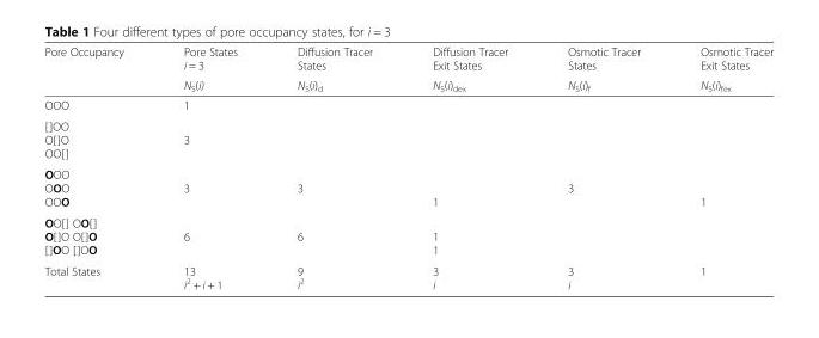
<table><thead><tr><td rowspan="2">Pore Occupancy</td><td rowspan="2">Pore States i = 3 N<sub>S</sub>(i)</td><td rowspan="2">Diffusion Tracer States N<sub>S</sub>(i)<sub>d</sub></td><td rowspan="2">Diffusion Tracer Exit States N<sub>S</sub>(i)<sub>dex</sub></td><td rowspan="2">Osmotic Tracer States N<sub>S</sub>(i)<sub>f</sub></td><td rowspan="2">Osmotic Tracer Exit States N<sub>S</sub>(i)<sub>fex</sub></td></tr><tr></tr></thead><tbody><tr><td>OOO</td><td>1</td><td></td><td></td><td></td><td></td></tr><tr><td>[]OO O[]O OO[]</td><td>3</td><td></td><td></td><td></td><td></td></tr><tr><td>OOO OOO OOO</td><td>3</td><td>3</td><td>1</td><td>3</td><td>1</td></tr><tr><td>OO[] OO[] O[]O O[]O []OO []OO</td><td>6</td><td>6</td><td>1 1</td><td></td><td></td></tr><tr><td>Total States</td><td>13 i<sup>2</sup> + i + 1</td><td>9 i<sup>2</sup></td><td>3 i</td><td>3 i</td><td>1</td></tr></tbody></table>